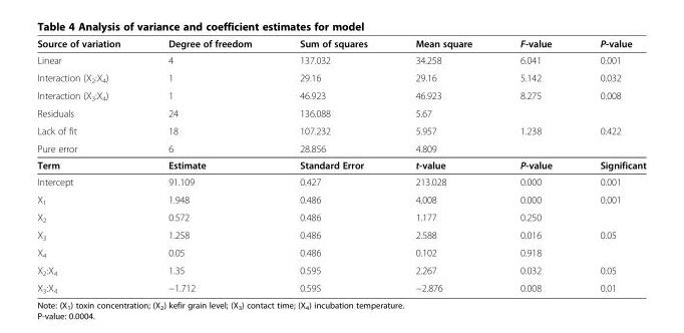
<table><tbody><tr><td>Source of variation</td><td>Degree of freedom</td><td>Sum of squares</td><td>Mean square</td><td>F-value</td><td>P-value</td></tr><tr><td>Linear</td><td>4</td><td>137.032</td><td>34.258</td><td>6.041</td><td>0.001</td></tr><tr><td>Interaction (X<sub>2</sub>:X<sub>4</sub>)</td><td>1</td><td>29.16</td><td>29.16</td><td>5.142</td><td>0.032</td></tr><tr><td>Interaction (X<sub>3</sub>:X<sub>4</sub>)</td><td>1</td><td>46.923</td><td>46.923</td><td>8.275</td><td>0.008</td></tr><tr><td>Residuals</td><td>24</td><td>136.088</td><td>5.67</td><td></td><td></td></tr><tr><td>Lack of fit</td><td>18</td><td>107.232</td><td>5.957</td><td>1.238</td><td>0.422</td></tr><tr><td>Pure error</td><td>6</td><td>28.856</td><td>4.809</td><td></td><td></td></tr><tr><td>Term</td><td>Estimate</td><td>Standard Error</td><td>t-value</td><td>P-value</td><td>Significant</td></tr><tr><td>Intercept</td><td>91.109</td><td>0.427</td><td>213.028</td><td>0.000</td><td>0.001</td></tr><tr><td>X<sub>1</sub></td><td>1.948</td><td>0.486</td><td>4.008</td><td>0.000</td><td>0.001</td></tr><tr><td>X<sub>2</sub></td><td>0.572</td><td>0.486</td><td>1.177</td><td>0.250</td><td></td></tr><tr><td>X<sub>3</sub></td><td>1.258</td><td>0.486</td><td>2.588</td><td>0.016</td><td>0.05</td></tr><tr><td>X<sub>4</sub></td><td>0.05</td><td>0.486</td><td>0.102</td><td>0.918</td><td></td></tr><tr><td>X<sub>2</sub>:X<sub>4</sub></td><td>1.35</td><td>0.595</td><td>2.267</td><td>0.032</td><td>0.05</td></tr><tr><td>X<sub>3</sub>:X<sub>4</sub></td><td>−1.712</td><td>0.595</td><td>−2.876</td><td>0.008</td><td>0.01</td></tr></tbody></table>